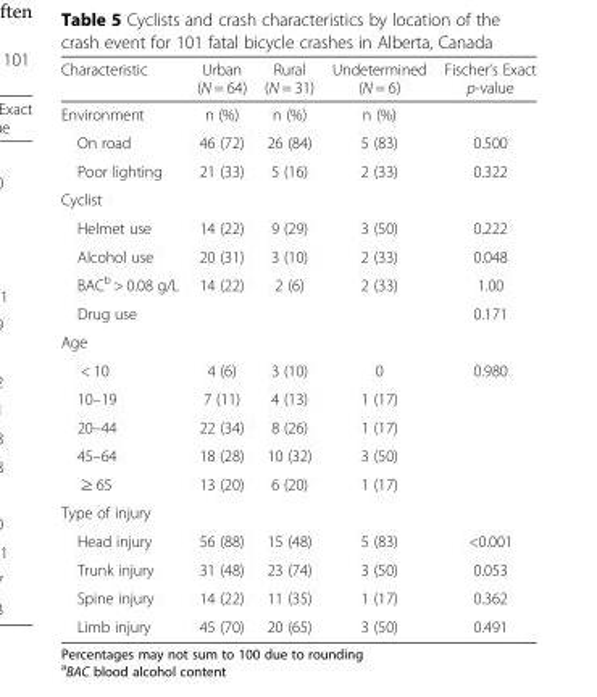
<table><thead><tr><td>Characteristic</td><td>Urban (N = 64)</td><td>Rural (N = 31)</td><td>Undetermined (N = 6)</td><td>Fischer’s Exact p-value</td></tr></thead><tbody><tr><td>Environment</td><td>n (%)</td><td>n (%)</td><td>n (%)</td><td></td></tr><tr><td>On road</td><td>46 (72)</td><td>26 (84)</td><td>5 (83)</td><td>0.500</td></tr><tr><td>Poor lighting</td><td>21 (33)</td><td>5 (16)</td><td>2 (33)</td><td>0.322</td></tr><tr><td colspan="5">Cyclist</td></tr><tr><td>Helmet use</td><td>14 (22)</td><td>9 (29)</td><td>3 (50)</td><td>0.222</td></tr><tr><td>Alcohol use</td><td>20 (31)</td><td>3 (10)</td><td>2 (33)</td><td>0.048</td></tr><tr><td>BAC<sup>b</sup> &gt; 0.08 g/L</td><td>14 (22)</td><td>2 (6)</td><td>2 (33)</td><td>1.00</td></tr><tr><td>Drug use</td><td></td><td></td><td></td><td>0.171</td></tr><tr><td colspan="5">Age</td></tr><tr><td>&lt; 10</td><td>4 (6)</td><td>3 (10)</td><td>0</td><td>0.980</td></tr><tr><td>10–19</td><td>7 (11)</td><td>4 (13)</td><td>1 (17)</td><td></td></tr><tr><td>20–44</td><td>22 (34)</td><td>8 (26)</td><td>1 (17)</td><td></td></tr><tr><td>45–64</td><td>18 (28)</td><td>10 (32)</td><td>3 (50)</td><td></td></tr><tr><td>≥ 65</td><td>13 (20)</td><td>6 (20)</td><td>1 (17)</td><td></td></tr><tr><td colspan="5">Type of injury</td></tr><tr><td>Head injury</td><td>56 (88)</td><td>15 (48)</td><td>5 (83)</td><td>&lt;0.001</td></tr><tr><td>Trunk injury</td><td>31 (48)</td><td>23 (74)</td><td>3 (50)</td><td>0.053</td></tr><tr><td>Spine injury</td><td>14 (22)</td><td>11 (35)</td><td>1 (17)</td><td>0.362</td></tr><tr><td>Limb injury</td><td>45 (70)</td><td>20 (65)</td><td>3 (50)</td><td>0.491</td></tr></tbody></table>